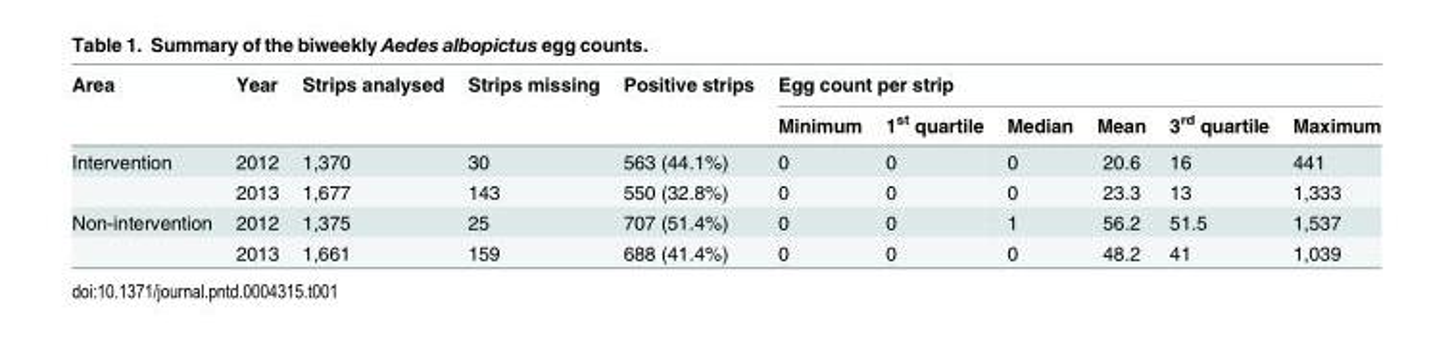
<table><thead><tr><td rowspan="2">Area</td><td rowspan="2">Year</td><td rowspan="2">Strips analysed</td><td rowspan="2">Strips missing</td><td rowspan="2">Positive strips</td><td colspan="6">Egg count per strip</td></tr><tr><td>Minimum</td><td>1<sup>st</sup> quartile</td><td>Median</td><td>Mean</td><td>3<sup>rd</sup> quartile</td><td>Maximum</td></tr></thead><tbody><tr><td rowspan="2">Intervention</td><td>2012</td><td>1,370</td><td>30</td><td>563 (44.1%)</td><td>0</td><td>0</td><td>0</td><td>20.6</td><td>16</td><td>441</td></tr><tr><td>2013</td><td>1,677</td><td>143</td><td>550 (32.8%)</td><td>0</td><td>0</td><td>0</td><td>23.3</td><td>13</td><td>1,333</td></tr><tr><td rowspan="2">Non-intervention</td><td>2012</td><td>1,375</td><td>25</td><td>707 (51.4%)</td><td>0</td><td>0</td><td>1</td><td>56.2</td><td>51.5</td><td>1,537</td></tr><tr><td>2013</td><td>1,661</td><td>159</td><td>688 (41.4%)</td><td>0</td><td>0</td><td>0</td><td>48.2</td><td>41</td><td>1,039</td></tr></tbody></table>